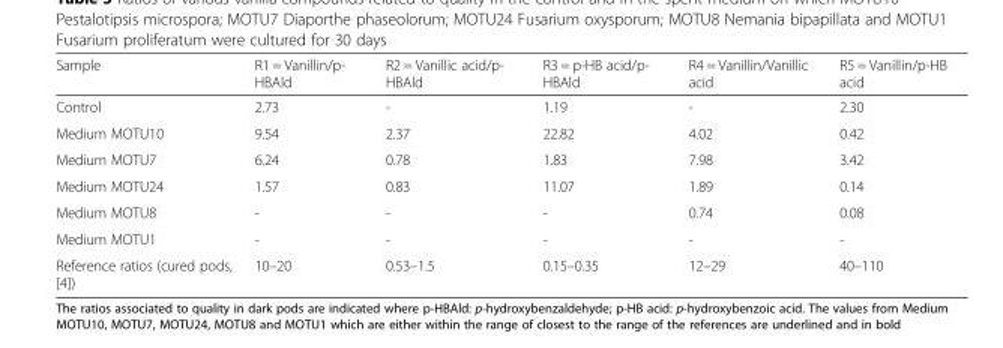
<table><thead><tr><td>Sample</td><td>R1 = Vanillin/p- HBAld</td><td>R2 = Vanillic acid/p- HBAld</td><td>R3 = p-HB acid/p- HBAld</td><td>R4 = Vanillin/Vanillic acid</td><td>R5 = Vanillin/p-HB acid</td></tr></thead><tbody><tr><td>Control</td><td>2.73</td><td>-</td><td>1.19</td><td>-</td><td>2.30</td></tr><tr><td>Medium MOTU10</td><td>9.54</td><td>2.37</td><td>22.82</td><td>4.02</td><td>0.42</td></tr><tr><td>Medium MOTU7</td><td>6.24</td><td>0.78</td><td>1.83</td><td>7.98</td><td>3.42</td></tr><tr><td>Medium MOTU24</td><td>1.57</td><td>0.83</td><td>11.07</td><td>1.89</td><td>0.14</td></tr><tr><td>Medium MOTU8</td><td>-</td><td>-</td><td>-</td><td>0.74</td><td>0.08</td></tr><tr><td>Medium MOTU1</td><td>-</td><td>-</td><td>-</td><td>-</td><td>-</td></tr><tr><td>Reference ratios (cured pods, [4])</td><td>10–20</td><td>0.53–1.5</td><td>0.15–0.35</td><td>12–29</td><td>40–110</td></tr></tbody></table>